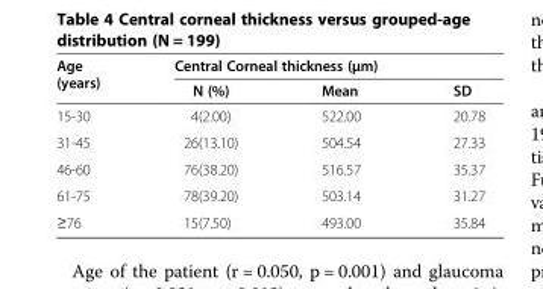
<table><thead><tr><td rowspan="2">Age (years)</td><td colspan="2">Central Corneal thickness (μm)</td><td rowspan="2">SD</td></tr><tr><td>N (%)</td><td>Mean</td></tr></thead><tbody><tr><td>15-30</td><td>4(2.00)</td><td>522.00</td><td>20.78</td></tr><tr><td>31-45</td><td>26(13.10)</td><td>504.54</td><td>27.33</td></tr><tr><td>46-60</td><td>76(38.20)</td><td>516.57</td><td>35.37</td></tr><tr><td>61-75</td><td>78(39.20)</td><td>503.14</td><td>31.27</td></tr><tr><td>≥76</td><td>15(7.50)</td><td>493.00</td><td>35.84</td></tr></tbody></table>